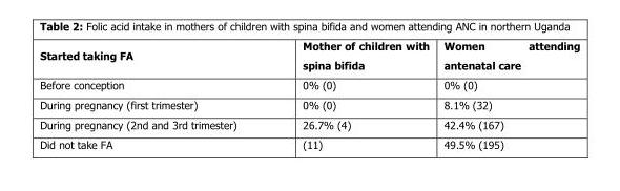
<table><thead><tr><td>Started taking FA</td><td>Mother of children with spina bifida</td><td>Women attending antenatal care</td></tr></thead><tbody><tr><td>Before conception</td><td>0% (0)</td><td>0% (0)</td></tr><tr><td>During pregnancy (first trimester)</td><td>0% (0)</td><td>8.1% (32)</td></tr><tr><td>During pregnancy (2nd and 3rd trimester)</td><td>26.7% (4)</td><td>42.4% (167)</td></tr><tr><td>Did not take FA</td><td>(11)</td><td>49.5% (195)</td></tr></tbody></table>